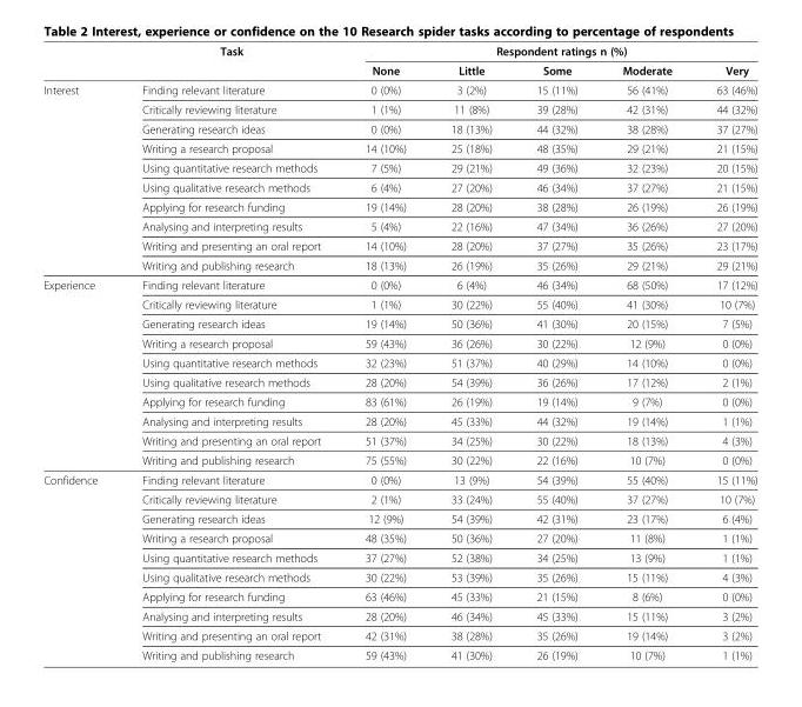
<table><thead><tr><td rowspan="2"></td><td rowspan="2">Task</td><td colspan="5">Respondent ratings n (%)</td></tr><tr><td>None</td><td>Little</td><td>Some</td><td>Moderate</td><td>Very</td></tr></thead><tbody><tr><td rowspan="10">Interest</td><td>Finding relevant literature</td><td>0 (0%)</td><td>3 (2%)</td><td>15 (11%)</td><td>56 (41%)</td><td>63 (46%)</td></tr><tr><td>Critically reviewing literature</td><td>1 (1%)</td><td>11 (8%)</td><td>39 (28%)</td><td>42 (31%)</td><td>44 (32%)</td></tr><tr><td>Generating research ideas</td><td>0 (0%)</td><td>18 (13%)</td><td>44 (32%)</td><td>38 (28%)</td><td>37 (27%)</td></tr><tr><td>Writing a research proposal</td><td>14 (10%)</td><td>25 (18%)</td><td>48 (35%)</td><td>29 (21%)</td><td>21 (15%)</td></tr><tr><td>Using quantitative research methods</td><td>7 (5%)</td><td>29 (21%)</td><td>49 (36%)</td><td>32 (23%)</td><td>20 (15%)</td></tr><tr><td>Using qualitative research methods</td><td>6 (4%)</td><td>27 (20%)</td><td>46 (34%)</td><td>37 (27%)</td><td>21 (15%)</td></tr><tr><td>Applying for research funding</td><td>19 (14%)</td><td>28 (20%)</td><td>38 (28%)</td><td>26 (19%)</td><td>26 (19%)</td></tr><tr><td>Analysing and interpreting results</td><td>5 (4%)</td><td>22 (16%)</td><td>47 (34%)</td><td>36 (26%)</td><td>27 (20%)</td></tr><tr><td>Writing and presenting an oral report</td><td>14 (10%)</td><td>28 (20%)</td><td>37 (27%)</td><td>35 (26%)</td><td>23 (17%)</td></tr><tr><td>Writing and publishing research</td><td>18 (13%)</td><td>26 (19%)</td><td>35 (26%)</td><td>29 (21%)</td><td>29 (21%)</td></tr><tr><td rowspan="10">Experience</td><td>Finding relevant literature</td><td>0 (0%)</td><td>6 (4%)</td><td>46 (34%)</td><td>68 (50%)</td><td>17 (12%)</td></tr><tr><td>Critically reviewing literature</td><td>1 (1%)</td><td>30 (22%)</td><td>55 (40%)</td><td>41 (30%)</td><td>10 (7%)</td></tr><tr><td>Generating research ideas</td><td>19 (14%)</td><td>50 (36%)</td><td>41 (30%)</td><td>20 (15%)</td><td>7 (5%)</td></tr><tr><td>Writing a research proposal</td><td>59 (43%)</td><td>36 (26%)</td><td>30 (22%)</td><td>12 (9%)</td><td>0 (0%)</td></tr><tr><td>Using quantitative research methods</td><td>32 (23%)</td><td>51 (37%)</td><td>40 (29%)</td><td>14 (10%)</td><td>0 (0%)</td></tr><tr><td>Using qualitative research methods</td><td>28 (20%)</td><td>54 (39%)</td><td>36 (26%)</td><td>17 (12%)</td><td>2 (1%)</td></tr><tr><td>Applying for research funding</td><td>83 (61%)</td><td>26 (19%)</td><td>19 (14%)</td><td>9 (7%)</td><td>0 (0%)</td></tr><tr><td>Analysing and interpreting results</td><td>28 (20%)</td><td>45 (33%)</td><td>44 (32%)</td><td>19 (14%)</td><td>1 (1%)</td></tr><tr><td>Writing and presenting an oral report</td><td>51 (37%)</td><td>34 (25%)</td><td>30 (22%)</td><td>18 (13%)</td><td>4 (3%)</td></tr><tr><td>Writing and publishing research</td><td>75 (55%)</td><td>30 (22%)</td><td>22 (16%)</td><td>10 (7%)</td><td>0 (0%)</td></tr><tr><td rowspan="10">Confidence</td><td>Finding relevant literature</td><td>0 (0%)</td><td>13 (9%)</td><td>54 (39%)</td><td>55 (40%)</td><td>15 (11%)</td></tr><tr><td>Critically reviewing literature</td><td>2 (1%)</td><td>33 (24%)</td><td>55 (40%)</td><td>37 (27%)</td><td>10 (7%)</td></tr><tr><td>Generating research ideas</td><td>12 (9%)</td><td>54 (39%)</td><td>42 (31%)</td><td>23 (17%)</td><td>6 (4%)</td></tr><tr><td>Writing a research proposal</td><td>48 (35%)</td><td>50 (36%)</td><td>27 (20%)</td><td>11 (8%)</td><td>1 (1%)</td></tr><tr><td>Using quantitative research methods</td><td>37 (27%)</td><td>52 (38%)</td><td>34 (25%)</td><td>13 (9%)</td><td>1 (1%)</td></tr><tr><td>Using qualitative research methods</td><td>30 (22%)</td><td>53 (39%)</td><td>35 (26%)</td><td>15 (11%)</td><td>4 (3%)</td></tr><tr><td>Applying for research funding</td><td>63 (46%)</td><td>45 (33%)</td><td>21 (15%)</td><td>8 (6%)</td><td>0 (0%)</td></tr><tr><td>Analysing and interpreting results</td><td>28 (20%)</td><td>46 (34%)</td><td>45 (33%)</td><td>15 (11%)</td><td>3 (2%)</td></tr><tr><td>Writing and presenting an oral report</td><td>42 (31%)</td><td>38 (28%)</td><td>35 (26%)</td><td>19 (14%)</td><td>3 (2%)</td></tr><tr><td>Writing and publishing research</td><td>59 (43%)</td><td>41 (30%)</td><td>26 (19%)</td><td>10 (7%)</td><td>1 (1%)</td></tr></tbody></table>